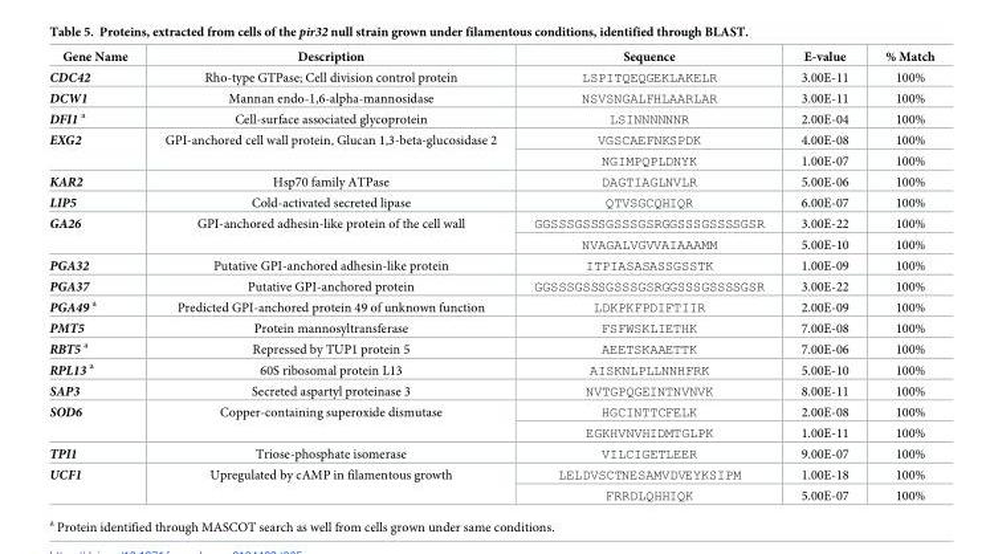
<table><thead><tr><td>Gene Name</td><td>Description</td><td>Sequence</td><td>E-value</td><td>% Match</td></tr></thead><tbody><tr><td>CDC42</td><td>Rho-type GTPase; Cell division control protein</td><td>LSPITQEQGEKLAKELR</td><td>3.00E-11</td><td>100%</td></tr><tr><td>DCW1</td><td>Mannan endo-1,6-alpha-mannosidase</td><td>NSVSNGALFHLAARLAR</td><td>3.00E-11</td><td>100%</td></tr><tr><td>DFI1 <sup>a</sup></td><td>Cell-surface associated glycoprotein</td><td>LSINNNNNNR</td><td>2.00E-04</td><td>100%</td></tr><tr><td rowspan="2">EXG2</td><td rowspan="2">GPI-anchored cell wall protein, Glucan 1,3-beta-glucosidase 2</td><td>VGSCAEFNKSPDK</td><td>4.00E-08</td><td>100%</td></tr><tr><td>NGIMPQPLDNYK</td><td>1.00E-07</td><td>100%</td></tr><tr><td>KAR2</td><td>Hsp70 family ATPase</td><td>DAGTIAGLNVLR</td><td>5.00E-06</td><td>100%</td></tr><tr><td>LIP5</td><td>Cold-activated secreted lipase</td><td>QTVSGCQHIQR</td><td>6.00E-07</td><td>100%</td></tr><tr><td rowspan="2">GA26</td><td rowspan="2">GPI-anchored adhesin-like protein of the cell wall</td><td>GGSSSGSSSGSSSGSRGGSSSGSSSSGSR</td><td>3.00E-22</td><td>100%</td></tr><tr><td>NVAGALVGVVAIAAAMM</td><td>5.00E-10</td><td>100%</td></tr><tr><td>PGA32</td><td>Putative GPI-anchored adhesin-like protein</td><td>ITPIASASASSGSSTK</td><td>1.00E-09</td><td>100%</td></tr><tr><td>PGA37</td><td>Putative GPI-anchored protein</td><td>GGSSSGSSSGSSSGSRGGSSSGSSSSGSR</td><td>3.00E-22</td><td>100%</td></tr><tr><td>PGA49 <sup>a</sup></td><td>Predicted GPI-anchored protein 49 of unknown function</td><td>LDKPKFPDIFTIIR</td><td>2.00E-09</td><td>100%</td></tr><tr><td>PMT5</td><td>Protein mannosyltransferase</td><td>FSFWSKLIETHK</td><td>7.00E-08</td><td>100%</td></tr><tr><td>RBT5 <sup>a</sup></td><td>Repressed by TUP1 protein 5</td><td>AEETSKAAETTK</td><td>7.00E-06</td><td>100%</td></tr><tr><td>RPL13 <sup>a</sup></td><td>60S ribosomal protein L13</td><td>AISKNLPLLNNHFRK</td><td>5.00E-10</td><td>100%</td></tr><tr><td>SAP3</td><td>Secreted aspartyl proteinase 3</td><td>NVTGPQGEINTNVNVK</td><td>8.00E-11</td><td>100%</td></tr><tr><td rowspan="2">SOD6</td><td rowspan="2">Copper-containing superoxide dismutase</td><td>HGCINTTCFELK</td><td>2.00E-08</td><td>100%</td></tr><tr><td>EGKHVNVHIDMTGLPK</td><td>1.00E-11</td><td>100%</td></tr><tr><td>TPI1</td><td>Triose-phosphate isomerase</td><td>VILCIGETLEER</td><td>9.00E-07</td><td>100%</td></tr><tr><td rowspan="2">UCF1</td><td rowspan="2">Upregulated by cAMP in filamentous growth</td><td>LELDVSCTNESAMVDVEYKSIPM</td><td>1.00E-18</td><td>100%</td></tr><tr><td>FRRDLQHHIQK</td><td>5.00E-07</td><td>100%</td></tr></tbody></table>